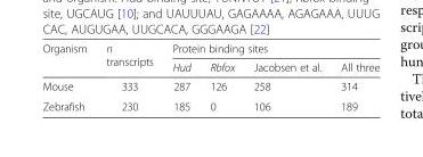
<table><thead><tr><td rowspan="2">Organism</td><td rowspan="2">n transcripts</td><td colspan="4">Protein binding sites</td></tr><tr><td>Hud</td><td>Rbfox</td><td>Jacobsen et al.</td><td>All three</td></tr></thead><tbody><tr><td>Mouse</td><td>333</td><td>287</td><td>126</td><td>258</td><td>314</td></tr><tr><td>Zebrafish</td><td>230</td><td>185</td><td>0</td><td>106</td><td>189</td></tr></tbody></table>